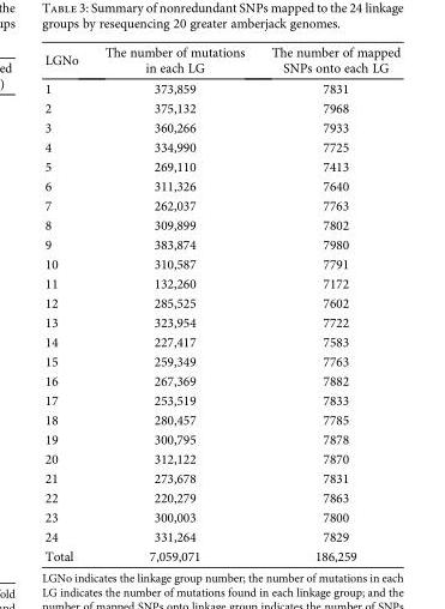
<table><thead><tr><td>LGNo</td><td>The number of mutations in each LG</td><td>The number of mapped SNPs onto each LG</td></tr></thead><tbody><tr><td>1</td><td>373,859</td><td>7831</td></tr><tr><td>2</td><td>375,132</td><td>7968</td></tr><tr><td>3</td><td>360,266</td><td>7933</td></tr><tr><td>4</td><td>334,990</td><td>7725</td></tr><tr><td>5</td><td>269,110</td><td>7413</td></tr><tr><td>6</td><td>311,326</td><td>7640</td></tr><tr><td>7</td><td>262,037</td><td>7763</td></tr><tr><td>8</td><td>309,899</td><td>7802</td></tr><tr><td>9</td><td>383,874</td><td>7980</td></tr><tr><td>10</td><td>310,587</td><td>7791</td></tr><tr><td>11</td><td>132,260</td><td>7172</td></tr><tr><td>12</td><td>285,525</td><td>7602</td></tr><tr><td>13</td><td>323,954</td><td>7722</td></tr><tr><td>14</td><td>227,417</td><td>7583</td></tr><tr><td>15</td><td>259,349</td><td>7763</td></tr><tr><td>16</td><td>267,369</td><td>7882</td></tr><tr><td>17</td><td>253,519</td><td>7833</td></tr><tr><td>18</td><td>280,457</td><td>7785</td></tr><tr><td>19</td><td>300,795</td><td>7878</td></tr><tr><td>20</td><td>312,122</td><td>7870</td></tr><tr><td>21</td><td>273,678</td><td>7831</td></tr><tr><td>22</td><td>220,279</td><td>7863</td></tr><tr><td>23</td><td>300,003</td><td>7800</td></tr><tr><td>24</td><td>331,264</td><td>7829</td></tr><tr><td>Total</td><td>7,059,071</td><td>186,259</td></tr></tbody></table>